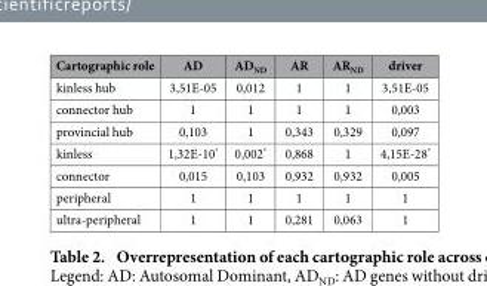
<table><thead><tr><td>Cartographic role</td><td>AD</td><td>AD<sub>ND</sub></td><td>AR</td><td>AR<sub>ND</sub></td><td>driver</td></tr></thead><tbody><tr><td>kinless hub</td><td>3,51E-05</td><td>0,012</td><td>1</td><td>1</td><td>3,51E-05</td></tr><tr><td>connector hub</td><td>1</td><td>1</td><td>1</td><td>1</td><td>0,003</td></tr><tr><td>provincial hub</td><td>0,103</td><td>1</td><td>0,343</td><td>0,329</td><td>0,097</td></tr><tr><td>kinless</td><td>1,32E-10*</td><td>0,002*</td><td>0,868</td><td>1</td><td>4,15E-28*</td></tr><tr><td>connector</td><td>0,015</td><td>0,103</td><td>0,932</td><td>0,932</td><td>0,005</td></tr><tr><td>peripheral</td><td>1</td><td>1</td><td>1</td><td>1</td><td>1</td></tr><tr><td>ultra-peripheral</td><td>1</td><td>1</td><td>0,281</td><td>0,063</td><td>1</td></tr></tbody></table>